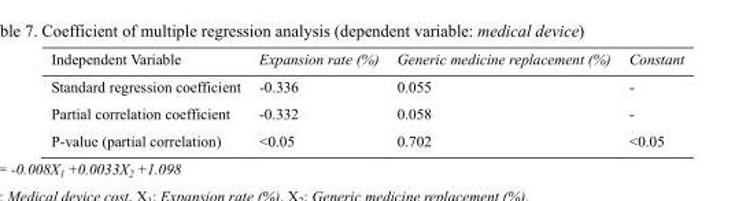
<table><thead><tr><td>Independent Variable</td><td>Expansion rate (%)</td><td>Generic medicine replacement (%)</td><td>Constant</td></tr></thead><tbody><tr><td>Standard regression coefficient</td><td>-0.336</td><td>0.055</td><td>-</td></tr><tr><td>Partial correlation coefficient</td><td>-0.332</td><td>0.058</td><td>-</td></tr><tr><td>P-value (partial correlation)</td><td>&lt;0.05</td><td>0.702</td><td>&lt;0.05</td></tr></tbody></table>